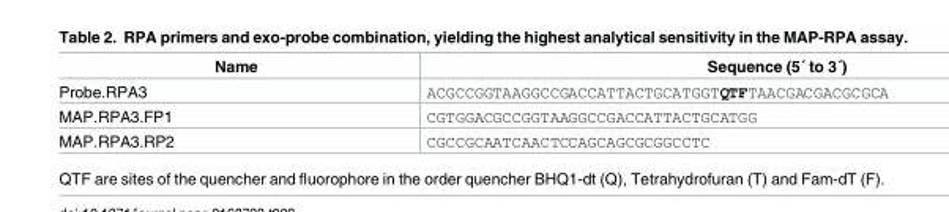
<table><thead><tr><td>Name</td><td>Sequence (5´ to 3´)</td></tr></thead><tbody><tr><td>Probe.RPA3</td><td>ACGCCGGTAAGGCCGACCATTACTGCATGGTQTFTAACGACGACGCGCA</td></tr><tr><td>MAP.RPA3.FP1</td><td>CGTGGACGCCGGTAAGGCCGACCATTACTGCATGG</td></tr><tr><td>MAP.RPA3.RP2</td><td>CGCCGCAATCAACTCCAGCAGCGCGGCCTC</td></tr></tbody></table>